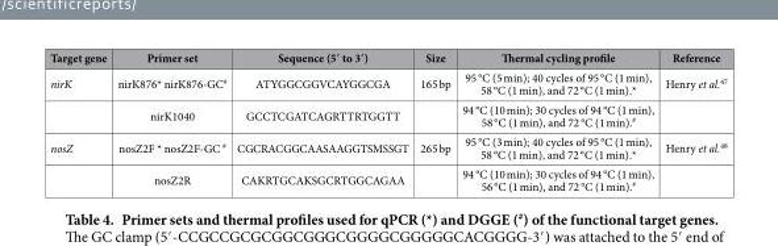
<table><thead><tr><td>Target gene</td><td>Primer set</td><td>Sequence (5′ to 3′)</td><td>Size</td><td>Thermal cycling profile</td><td>Reference</td></tr></thead><tbody><tr><td rowspan="2">nirK</td><td>nirK876* nirK876-GC<sup>#</sup></td><td>ATYGGCGGVCAYGGCGA</td><td>165 bp</td><td>95 °C (5 min); 40 cycles of 95 °C (1 min), 58 °C (1 min), and 72 °C (1 min).*</td><td>Henry et al.<sup>47</sup></td></tr><tr><td>nirK1040</td><td>GCCTCGATCAGRTTRTGGTT</td><td></td><td>94 °C (10 min); 30 cycles of 94 °C (1 min), 58 °C (1 min), and 72 °C (1 min).<sup>#</sup></td><td></td></tr><tr><td rowspan="2">nosZ</td><td>nosZ2F * nosZ2F-GC <sup>#</sup></td><td>CGCRACGGCAASAAGGTSMSSGT</td><td>265 bp</td><td>95 °C (3 min); 40 cycles of 95 °C (1 min), 58 °C (1 min), and 72 °C (1 min).*</td><td>Henry et al.<sup>48</sup></td></tr><tr><td>nosZ2R</td><td>CAKRTGCAKSGCRTGGCAGAA</td><td></td><td>94 °C (10 min); 30 cycles of 94 °C (1 min), 56 °C (1 min), and 72 °C (1 min).<sup>#</sup></td><td></td></tr></tbody></table>